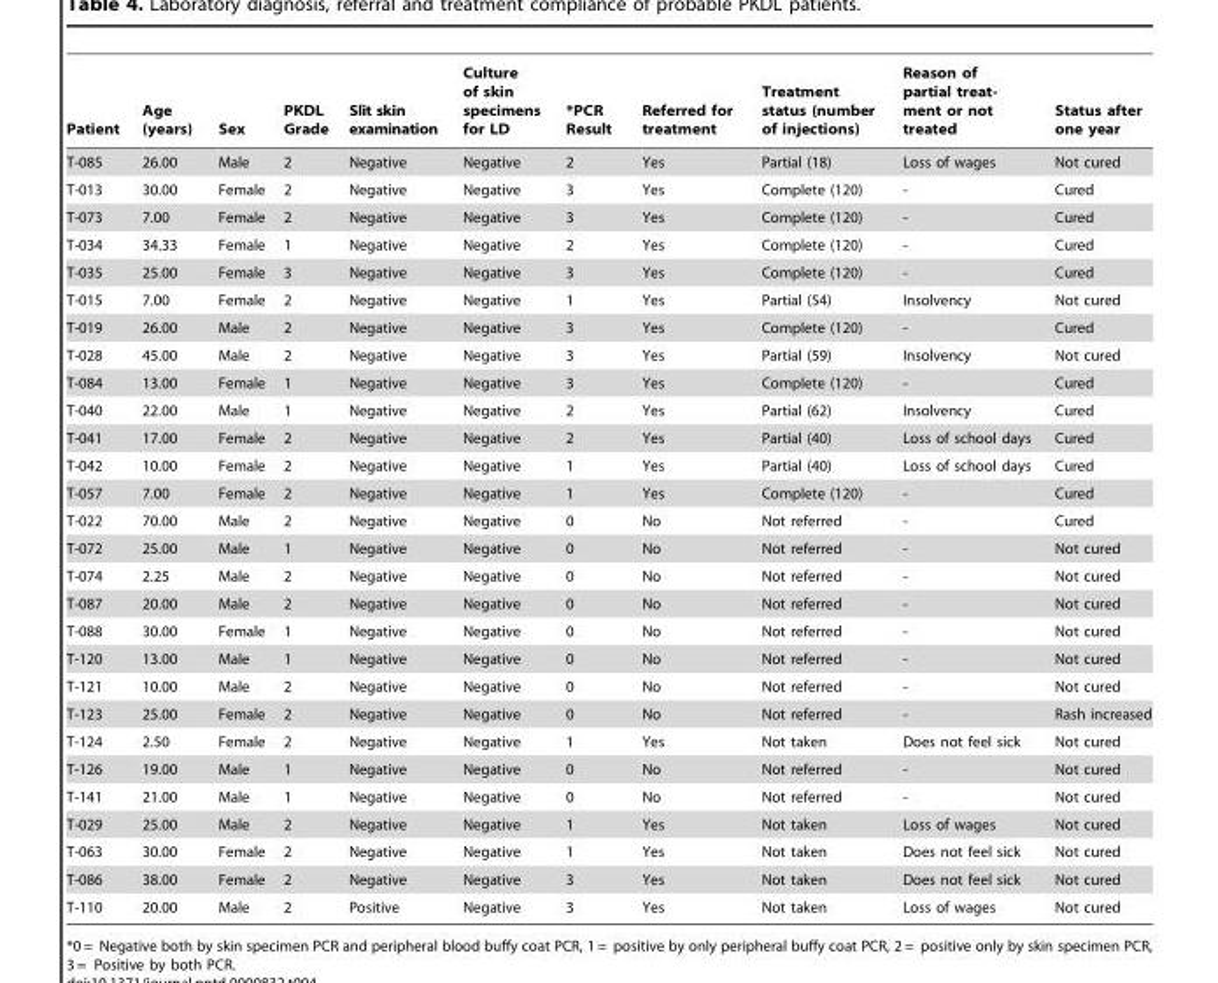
<table><thead><tr><td>Patient</td><td>Age (years)</td><td>Sex</td><td>PKDL Grade</td><td>Slit skin examination</td><td>Culture of skin specimens for LD</td><td>*PCR Result</td><td>Referred for treatment</td><td>Treatment status (number of injections)</td><td>Reason of partial treat- ment or not treated</td><td>Status after one year</td></tr></thead><tbody><tr><td>T-085</td><td>26.00</td><td>Male</td><td>2</td><td>Negative</td><td>Negative</td><td>2</td><td>Yes</td><td>Partial (18)</td><td>Loss of wages</td><td>Not cured</td></tr><tr><td>T-013</td><td>30.00</td><td>Female</td><td>2</td><td>Negative</td><td>Negative</td><td>3</td><td>Yes</td><td>Complete (120)</td><td>-</td><td>Cured</td></tr><tr><td>T-073</td><td>7.00</td><td>Female</td><td>2</td><td>Negative</td><td>Negative</td><td>3</td><td>Yes</td><td>Complete (120)</td><td>-</td><td>Cured</td></tr><tr><td>T-034</td><td>34.33</td><td>Female</td><td>1</td><td>Negative</td><td>Negative</td><td>2</td><td>Yes</td><td>Complete (120)</td><td>-</td><td>Cured</td></tr><tr><td>T-035</td><td>25.00</td><td>Female</td><td>3</td><td>Negative</td><td>Negative</td><td>3</td><td>Yes</td><td>Complete (120)</td><td>-</td><td>Cured</td></tr><tr><td>T-015</td><td>7.00</td><td>Female</td><td>2</td><td>Negative</td><td>Negative</td><td>1</td><td>Yes</td><td>Partial (54)</td><td>Insolvency</td><td>Not cured</td></tr><tr><td>T-019</td><td>26.00</td><td>Male</td><td>2</td><td>Negative</td><td>Negative</td><td>3</td><td>Yes</td><td>Complete (120)</td><td>-</td><td>Cured</td></tr><tr><td>T-028</td><td>45.00</td><td>Male</td><td>2</td><td>Negative</td><td>Negative</td><td>3</td><td>Yes</td><td>Partial (59)</td><td>Insolvency</td><td>Not cured</td></tr><tr><td>T-084</td><td>13.00</td><td>Female</td><td>1</td><td>Negative</td><td>Negative</td><td>3</td><td>Yes</td><td>Complete (120)</td><td>-</td><td>Cured</td></tr><tr><td>T-040</td><td>22.00</td><td>Male</td><td>1</td><td>Negative</td><td>Negative</td><td>2</td><td>Yes</td><td>Partial (62)</td><td>Insolvency</td><td>Cured</td></tr><tr><td>T-041</td><td>17.00</td><td>Female</td><td>2</td><td>Negative</td><td>Negative</td><td>2</td><td>Yes</td><td>Partial (40)</td><td>Loss of school days</td><td>Cured</td></tr><tr><td>T-042</td><td>10.00</td><td>Female</td><td>2</td><td>Negative</td><td>Negative</td><td>1</td><td>Yes</td><td>Partial (40)</td><td>Loss of school days</td><td>Cured</td></tr><tr><td>T-057</td><td>7.00</td><td>Female</td><td>2</td><td>Negative</td><td>Negative</td><td>1</td><td>Yes</td><td>Complete (120)</td><td>-</td><td>Cured</td></tr><tr><td>T-022</td><td>70.00</td><td>Male</td><td>2</td><td>Negative</td><td>Negative</td><td>0</td><td>No</td><td>Not referred</td><td>-</td><td>Cured</td></tr><tr><td>T-072</td><td>25.00</td><td>Male</td><td>1</td><td>Negative</td><td>Negative</td><td>0</td><td>No</td><td>Not referred</td><td>-</td><td>Not cured</td></tr><tr><td>T-074</td><td>2.25</td><td>Male</td><td>2</td><td>Negative</td><td>Negative</td><td>0</td><td>No</td><td>Not referred</td><td>-</td><td>Not cured</td></tr><tr><td>T-087</td><td>20.00</td><td>Male</td><td>2</td><td>Negative</td><td>Negative</td><td>0</td><td>No</td><td>Not referred</td><td>-</td><td>Not cured</td></tr><tr><td>T-088</td><td>30.00</td><td>Female</td><td>1</td><td>Negative</td><td>Negative</td><td>0</td><td>No</td><td>Not referred</td><td>-</td><td>Not cured</td></tr><tr><td>T-120</td><td>13.00</td><td>Male</td><td>1</td><td>Negative</td><td>Negative</td><td>0</td><td>No</td><td>Not referred</td><td>-</td><td>Not cured</td></tr><tr><td>T-121</td><td>10.00</td><td>Male</td><td>2</td><td>Negative</td><td>Negative</td><td>0</td><td>No</td><td>Not referred</td><td>-</td><td>Not cured</td></tr><tr><td>T-123</td><td>25.00</td><td>Female</td><td>2</td><td>Negative</td><td>Negative</td><td>0</td><td>No</td><td>Not referred</td><td>-</td><td>Rash increased</td></tr><tr><td>T-124</td><td>2.50</td><td>Female</td><td>2</td><td>Negative</td><td>Negative</td><td>1</td><td>Yes</td><td>Not taken</td><td>Does not feel sick</td><td>Not cured</td></tr><tr><td>T-126</td><td>19.00</td><td>Male</td><td>1</td><td>Negative</td><td>Negative</td><td>0</td><td>No</td><td>Not referred</td><td>-</td><td>Not cured</td></tr><tr><td>T-141</td><td>21.00</td><td>Male</td><td>1</td><td>Negative</td><td>Negative</td><td>0</td><td>No</td><td>Not referred</td><td>-</td><td>Not cured</td></tr><tr><td>T-029</td><td>25.00</td><td>Male</td><td>2</td><td>Negative</td><td>Negative</td><td>1</td><td>Yes</td><td>Not taken</td><td>Loss of wages</td><td>Not cured</td></tr><tr><td>T-063</td><td>30.00</td><td>Female</td><td>2</td><td>Negative</td><td>Negative</td><td>1</td><td>Yes</td><td>Not taken</td><td>Does not feel sick</td><td>Not cured</td></tr><tr><td>T-086</td><td>38.00</td><td>Female</td><td>2</td><td>Negative</td><td>Negative</td><td>3</td><td>Yes</td><td>Not taken</td><td>Does not feel sick</td><td>Not cured</td></tr><tr><td>T-110</td><td>20.00</td><td>Male</td><td>2</td><td>Positive</td><td>Negative</td><td>3</td><td>Yes</td><td>Not taken</td><td>Loss of wages</td><td>Not cured</td></tr></tbody></table>